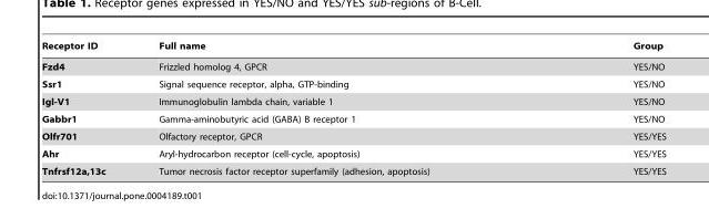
<table><thead><tr><td>Receptor ID</td><td>Full name</td><td>Group</td></tr></thead><tbody><tr><td>Fzd4</td><td>Frizzled homolog 4, GPCR</td><td>YES/NO</td></tr><tr><td>Ssr1</td><td>Signal sequence receptor, alpha, GTP-binding</td><td>YES/NO</td></tr><tr><td>Igl-V1</td><td>Immunoglobulin lambda chain, variable 1</td><td>YES/NO</td></tr><tr><td>Gabbr1</td><td>Gamma-aminobutyric acid (GABA) B receptor 1</td><td>YES/NO</td></tr><tr><td>Olfr701</td><td>Olfactory receptor, GPCR</td><td>YES/YES</td></tr><tr><td>Ahr</td><td>Aryl-hydrocarbon receptor (cell-cycle, apoptosis)</td><td>YES/YES</td></tr><tr><td>Tnfrsf12a,13c</td><td>Tumor necrosis factor receptor superfamily (adhesion, apoptosis)</td><td>YES/YES</td></tr></tbody></table>